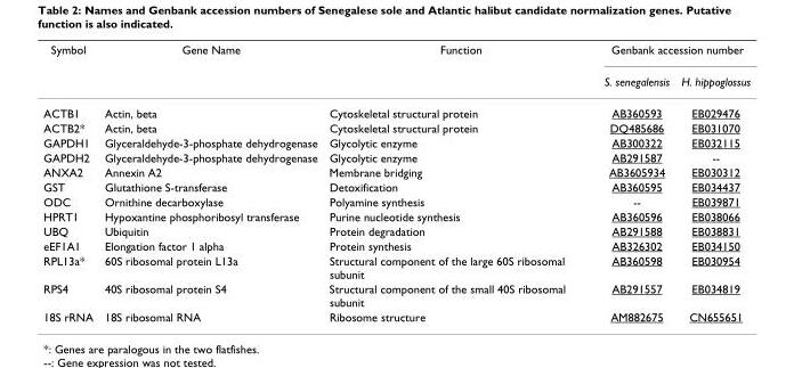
<table><thead><tr><td rowspan="2">Symbol</td><td rowspan="2">Gene Name</td><td rowspan="2">Function</td><td colspan="2">Genbank accession number</td></tr><tr><td>S. senegalensis</td><td>H. hippoglossus</td></tr></thead><tbody><tr><td>ACTB1</td><td>Actin, beta</td><td>Cytoskeletal structural protein</td><td>AB360593</td><td>EB029476</td></tr><tr><td>ACTB2*</td><td>Actin, beta</td><td>Cytoskeletal structural protein</td><td>DQ485686</td><td>EB031070</td></tr><tr><td>GAPDH1</td><td>Glyceraldehyde-3-phosphate dehydrogenase</td><td>Glycolytic enzyme</td><td>AB300322</td><td>EB032115</td></tr><tr><td>GAPDH2</td><td>Glyceraldehyde-3-phosphate dehydrogenase</td><td>Glycolytic enzyme</td><td>AB291587</td><td>--</td></tr><tr><td>ANXA2</td><td>Annexin A2</td><td>Membrane bridging</td><td>AB3605934</td><td>EB030312</td></tr><tr><td>GST</td><td>Glutathione S-transferase</td><td>Detoxification</td><td>AB360595</td><td>EB034437</td></tr><tr><td>ODC</td><td>Ornithine decarboxylase</td><td>Polyamine synthesis</td><td>--</td><td>EB039871</td></tr><tr><td>HPRT1</td><td>Hypoxantine phosphoribosyl transferase</td><td>Purine nucleotide synthesis</td><td>AB360596</td><td>EB038066</td></tr><tr><td>UBQ</td><td>Ubiquitin</td><td>Protein degradation</td><td>AB291588</td><td>EB038831</td></tr><tr><td>eEF1A1</td><td>Elongation factor 1 alpha</td><td>Protein synthesis</td><td>AB326302</td><td>EB034150</td></tr><tr><td>RPL13a*</td><td>60S ribosomal protein L13a</td><td>Structural component of the large 60S ribosomal subunit</td><td>AB360598</td><td>EB030954</td></tr><tr><td>RPS4</td><td>40S ribosomal protein S4</td><td>Structural component of the small 40S ribosomal subunit</td><td>AB291557</td><td>EB034819</td></tr><tr><td>18S rRNA</td><td>18S ribosomal RNA</td><td>Ribosome structure</td><td>AM882675</td><td>CN655651</td></tr></tbody></table>